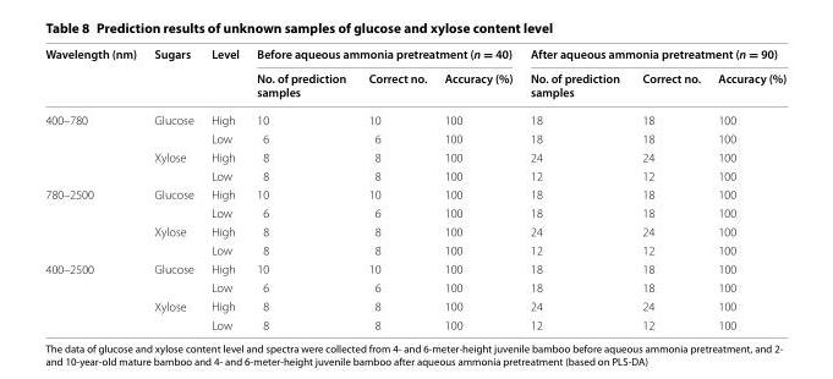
<table><thead><tr><td rowspan="2">Wavelength (nm)</td><td rowspan="2">Sugars</td><td rowspan="2">Level</td><td colspan="3">Before aqueous ammonia pretreatment (n = 40)</td><td colspan="3">After aqueous ammonia pretreatment (n = 90)</td></tr><tr><td>No. of prediction samples</td><td>Correct no.</td><td>Accuracy (%)</td><td>No. of prediction samples</td><td>Correct no.</td><td>Accuracy (%)</td></tr></thead><tbody><tr><td rowspan="4">400–780</td><td rowspan="2">Glucose</td><td>High</td><td>10</td><td>10</td><td>100</td><td>18</td><td>18</td><td>100</td></tr><tr><td>Low</td><td>6</td><td>6</td><td>100</td><td>18</td><td>18</td><td>100</td></tr><tr><td rowspan="2">Xylose</td><td>High</td><td>8</td><td>8</td><td>100</td><td>24</td><td>24</td><td>100</td></tr><tr><td>Low</td><td>8</td><td>8</td><td>100</td><td>12</td><td>12</td><td>100</td></tr><tr><td rowspan="4">780–2500</td><td rowspan="2">Glucose</td><td>High</td><td>10</td><td>10</td><td>100</td><td>18</td><td>18</td><td>100</td></tr><tr><td>Low</td><td>6</td><td>6</td><td>100</td><td>18</td><td>18</td><td>100</td></tr><tr><td rowspan="2">Xylose</td><td>High</td><td>8</td><td>8</td><td>100</td><td>24</td><td>24</td><td>100</td></tr><tr><td>Low</td><td>8</td><td>8</td><td>100</td><td>12</td><td>12</td><td>100</td></tr><tr><td rowspan="4">400–2500</td><td rowspan="2">Glucose</td><td>High</td><td>10</td><td>10</td><td>100</td><td>18</td><td>18</td><td>100</td></tr><tr><td>Low</td><td>6</td><td>6</td><td>100</td><td>18</td><td>18</td><td>100</td></tr><tr><td rowspan="2">Xylose</td><td>High</td><td>8</td><td>8</td><td>100</td><td>24</td><td>24</td><td>100</td></tr><tr><td>Low</td><td>8</td><td>8</td><td>100</td><td>12</td><td>12</td><td>100</td></tr></tbody></table>